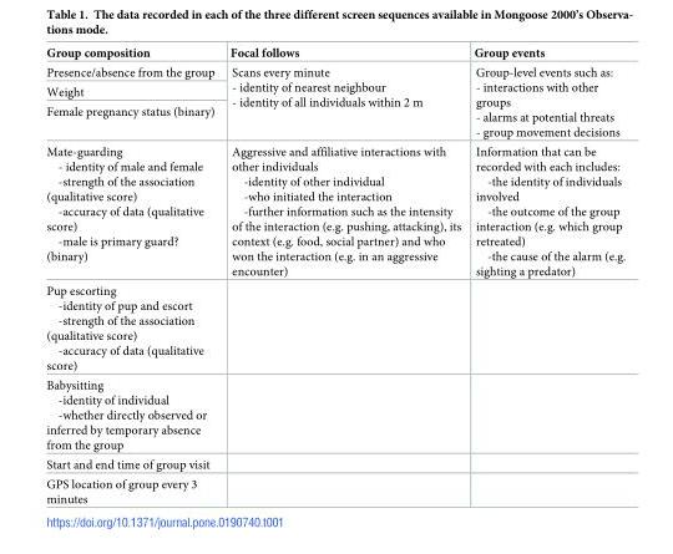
<table><thead><tr><td>Group composition</td><td>Focal follows</td><td>Group events</td></tr></thead><tbody><tr><td>Presence/absence from the group</td><td rowspan="3">Scans every minute - identity of nearest neighbour - identity of all individuals within 2 m</td><td rowspan="3">Group-level events such as: - interactions with other groups - alarms at potential threats - group movement decisions</td></tr><tr><td>Weight</td></tr><tr><td>Female pregnancy status (binary)</td></tr><tr><td>Mate-guarding - identity of male and female -strength of the association (qualitative score) -accuracy of data (qualitative score) -male is primary guard? (binary)</td><td>Aggressive and affiliative interactions with other individuals -identity of other individual -who initiated the interaction -further information such as the intensity of the interaction (e.g. pushing, attacking), its context (e.g. food, social partner) and who won the interaction (e.g. in an aggressive encounter)</td><td>Information that can be recorded with each includes: -the identity of individuals involved -the outcome of the group interaction (e.g. which group retreated) -the cause of the alarm (e.g. sighting a predator)</td></tr><tr><td colspan="3">Pup escorting -identity of pup and escort -strength of the association (qualitative score) -accuracy of data (qualitative score)</td></tr><tr><td colspan="3">Babysitting -identity of individual -whether directly observed or inferred by temporary absence from the group</td></tr><tr><td colspan="3">Start and end time of group visit</td></tr><tr><td>GPS location of group every 3 minutes</td><td></td><td></td></tr></tbody></table>